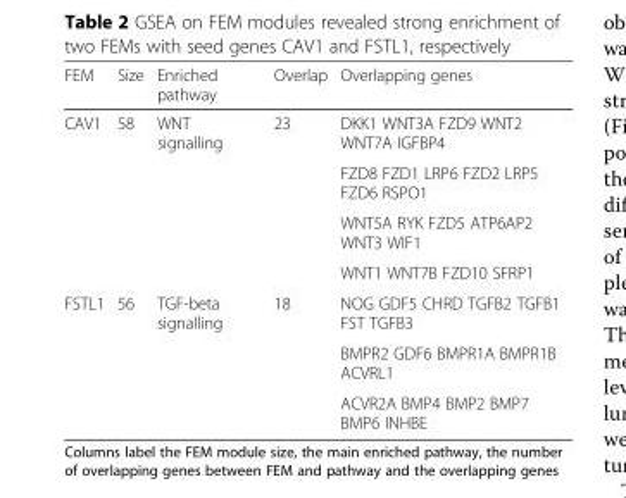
<table><thead><tr><td>FEM</td><td>Size</td><td>Enriched pathway</td><td>Overlap</td><td>Overlapping genes</td></tr></thead><tbody><tr><td rowspan="4">CAV1</td><td rowspan="4">58</td><td rowspan="4">WNT signalling</td><td rowspan="4">23</td><td>DKK1 WNT3A FZD9 WNT2 WNT7A IGFBP4</td></tr><tr><td>FZD8 FZD1 LRP6 FZD2 LRP5 FZD6 RSPO1</td></tr><tr><td>WNT5A RYK FZD5 ATP6AP2 WNT3 WIF1</td></tr><tr><td>WNT1 WNT7B FZD10 SFRP1</td></tr><tr><td rowspan="3">FSTL1</td><td rowspan="3">56</td><td rowspan="3">TGF-beta signalling</td><td rowspan="3">18</td><td>NOG GDF5 CHRD TGFB2 TGFB1 FST TGFB3</td></tr><tr><td>BMPR2 GDF6 BMPR1A BMPR1B ACVRL1</td></tr><tr><td>ACVR2A BMP4 BMP2 BMP7 BMP6 INHBE</td></tr></tbody></table>